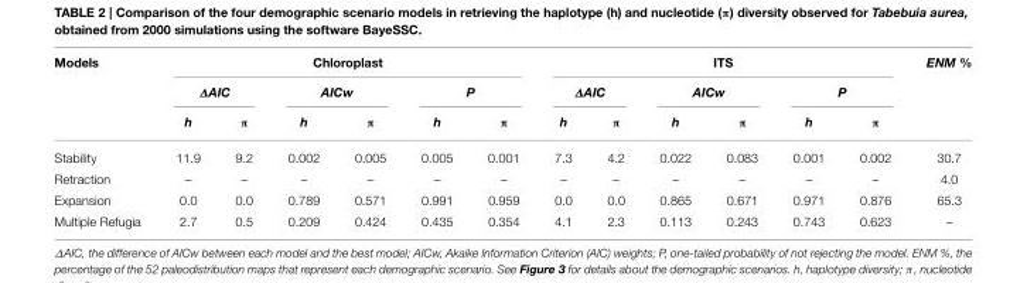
<table><thead><tr><td rowspan="3">Models</td><td colspan="6">Chloroplast</td><td colspan="6">ITS</td><td rowspan="3">ENM %</td></tr><tr><td colspan="2">ΔAIC</td><td colspan="2">AICw</td><td colspan="2">P</td><td colspan="2">ΔAIC</td><td colspan="2">AICw</td><td colspan="2">P</td></tr><tr><td>h</td><td>π</td><td>h</td><td>π</td><td>h</td><td>π</td><td>h</td><td>π</td><td>h</td><td>π</td><td>h</td><td>π</td></tr></thead><tbody><tr><td>Stability</td><td>11.9</td><td>9.2</td><td>0.002</td><td>0.005</td><td>0.005</td><td>0.001</td><td>7.3</td><td>4.2</td><td>0.022</td><td>0.083</td><td>0.001</td><td>0.002</td><td>30.7</td></tr><tr><td>Retraction</td><td>–</td><td>–</td><td>–</td><td>–</td><td>–</td><td>–</td><td>–</td><td>–</td><td>–</td><td>–</td><td>–</td><td>–</td><td>4.0</td></tr><tr><td>Expansion</td><td>0.0</td><td>0.0</td><td>0.789</td><td>0.571</td><td>0.991</td><td>0.959</td><td>0.0</td><td>0.0</td><td>0.865</td><td>0.671</td><td>0.971</td><td>0.876</td><td>65.3</td></tr><tr><td>Multiple Refugia</td><td>2.7</td><td>0.5</td><td>0.209</td><td>0.424</td><td>0.435</td><td>0.354</td><td>4.1</td><td>2.3</td><td>0.113</td><td>0.243</td><td>0.743</td><td>0.623</td><td>–</td></tr></tbody></table>